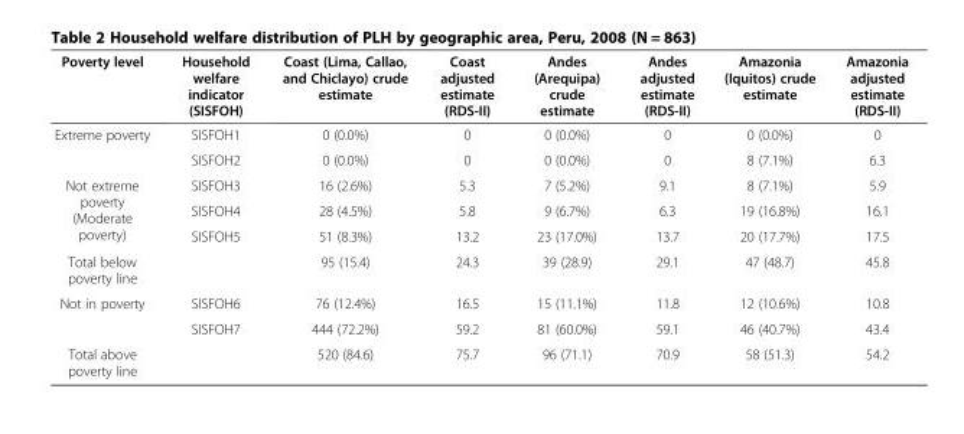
<table><thead><tr><td>Poverty level</td><td>Household welfare indicator (SISFOH)</td><td>Coast (Lima, Callao, and Chiclayo) crude estimate</td><td>Coast adjusted estimate (RDS-II)</td><td>Andes (Arequipa) crude estimate</td><td>Andes adjusted estimate (RDS-II)</td><td>Amazonia (Iquitos) crude estimate</td><td>Amazonia adjusted estimate (RDS-II)</td></tr></thead><tbody><tr><td rowspan="2">Extreme poverty</td><td>SISFOH1</td><td>0 (0.0%)</td><td>0</td><td>0 (0.0%)</td><td>0</td><td>0 (0.0%)</td><td>0</td></tr><tr><td>SISFOH2</td><td>0 (0.0%)</td><td>0</td><td>0 (0.0%)</td><td>0</td><td>8 (7.1%)</td><td>6.3</td></tr><tr><td rowspan="3">Not extreme poverty (Moderate poverty)</td><td>SISFOH3</td><td>16 (2.6%)</td><td>5.3</td><td>7 (5.2%)</td><td>9.1</td><td>8 (7.1%)</td><td>5.9</td></tr><tr><td>SISFOH4</td><td>28 (4.5%)</td><td>5.8</td><td>9 (6.7%)</td><td>6.3</td><td>19 (16.8%)</td><td>16.1</td></tr><tr><td>SISFOH5</td><td>51 (8.3%)</td><td>13.2</td><td>23 (17.0%)</td><td>13.7</td><td>20 (17.7%)</td><td>17.5</td></tr><tr><td>Total below poverty line</td><td></td><td>95 (15.4)</td><td>24.3</td><td>39 (28.9)</td><td>29.1</td><td>47 (48.7)</td><td>45.8</td></tr><tr><td rowspan="2">Not in poverty</td><td>SISFOH6</td><td>76 (12.4%)</td><td>16.5</td><td>15 (11.1%)</td><td>11.8</td><td>12 (10.6%)</td><td>10.8</td></tr><tr><td>SISFOH7</td><td>444 (72.2%)</td><td>59.2</td><td>81 (60.0%)</td><td>59.1</td><td>46 (40.7%)</td><td>43.4</td></tr><tr><td>Total above poverty line</td><td></td><td>520 (84.6)</td><td>75.7</td><td>96 (71.1)</td><td>70.9</td><td>58 (51.3)</td><td>54.2</td></tr></tbody></table>